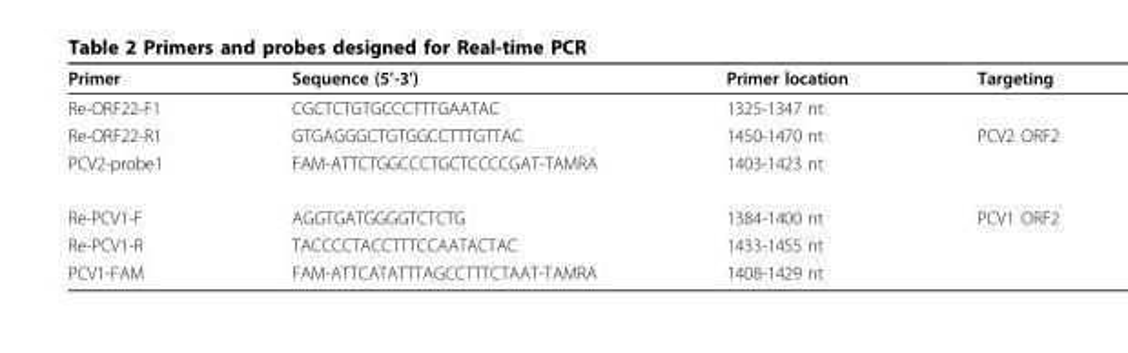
<table><thead><tr><td>Primer</td><td>Sequence (5’-3’)</td><td>Primer location</td><td>Targeting</td></tr></thead><tbody><tr><td>Re-ORF22-F1</td><td>CGCTCTGTGCCCTTTGAATAC</td><td>1325-1347 nt</td><td></td></tr><tr><td>Re-ORF22-R1</td><td>GTGAGGGCTGTGGCCTTTGTTAC</td><td>1450-1470 nt</td><td>PCV2 ORF2</td></tr><tr><td>PCV2-probe1</td><td>FAM-ATTCTGGCCCTGCTCCCCGAT-TAMRA</td><td>1403-1423 nt</td><td></td></tr><tr><td>Re-PCV1-F</td><td>AGGTGATGGGGTCTCTG</td><td>1384-1400 nt</td><td>PCV1 ORF2</td></tr><tr><td>Re-PCV1-R</td><td>TACCCCTACCTTTCCAATACTAC</td><td>1433-1455 nt</td><td></td></tr><tr><td>PCV1-FAM</td><td>FAM-ATTCATATTTAGCCTTTCTAAT-TAMRA</td><td>1408-1429 nt</td><td></td></tr></tbody></table>